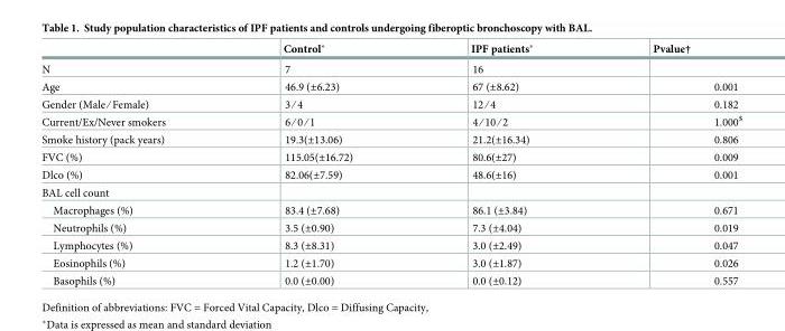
<table><thead><tr><td></td><td>Control*</td><td>IPF patients*</td><td>Pvalue†</td></tr></thead><tbody><tr><td>N</td><td>7</td><td>16</td><td></td></tr><tr><td>Age</td><td>46.9 (±6.23)</td><td>67 (±8.62)</td><td>0.001</td></tr><tr><td>Gender (Male ⁄ Female)</td><td>3 ⁄ 4</td><td>12 ⁄ 4</td><td>0.182</td></tr><tr><td>Current/Ex/Never smokers</td><td>6 ⁄ 0 ⁄ 1</td><td>4 ⁄ 10 ⁄ 2</td><td>1.000<sup>$</sup></td></tr><tr><td>Smoke history (pack years)</td><td>19.3(±13.06)</td><td>21.2(±16.34)</td><td>0.806</td></tr><tr><td>FVC (%)</td><td>115.05(±16.72)</td><td>80.6(±27)</td><td>0.009</td></tr><tr><td>Dlco (%)</td><td>82.06(±7.59)</td><td>48.6(±16)</td><td>0.001</td></tr><tr><td colspan="4">BAL cell count</td></tr><tr><td>Macrophages (%)</td><td>83.4 (±7.68)</td><td>86.1 (±3.84)</td><td>0.671</td></tr><tr><td>Neutrophils (%)</td><td>3.5 (±0.90)</td><td>7.3 (±4.04)</td><td>0.019</td></tr><tr><td>Lymphocytes (%)</td><td>8.3 (±8.31)</td><td>3.0 (±2.49)</td><td>0.047</td></tr><tr><td>Eosinophils (%)</td><td>1.2 (±1.70)</td><td>3.0 (±1.87)</td><td>0.026</td></tr><tr><td>Basophils (%)</td><td>0.0 (±0.00)</td><td>0.0 (±0.12)</td><td>0.557</td></tr></tbody></table>